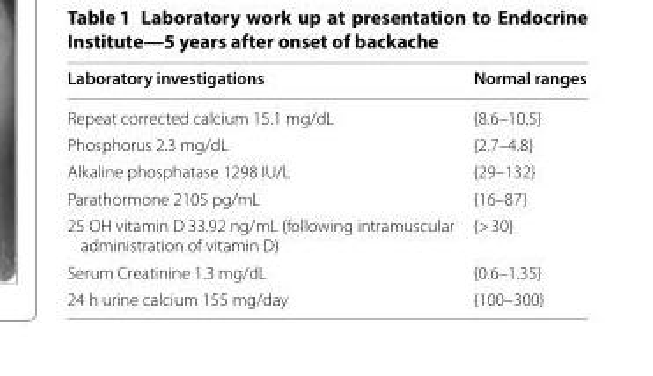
<table><thead><tr><td>Laboratory investigations</td><td>Normal ranges</td></tr></thead><tbody><tr><td>Repeat corrected calcium 15.1 mg/dL</td><td>{8.6–10.5}</td></tr><tr><td>Phosphorus 2.3 mg/dL</td><td>{2.7–4.8}</td></tr><tr><td>Alkaline phosphatase 1298 IU/L</td><td>{29–132}</td></tr><tr><td>Parathormone 2105 pg/mL</td><td>{16–87}</td></tr><tr><td>25 OH vitamin D 33.92 ng/mL (following intramuscular administration of vitamin D)</td><td>{&gt; 30}</td></tr><tr><td>Serum Creatinine 1.3 mg/dL</td><td>{0.6–1.35}</td></tr><tr><td>24 h urine calcium 155 mg/day</td><td>{100–300}</td></tr></tbody></table>